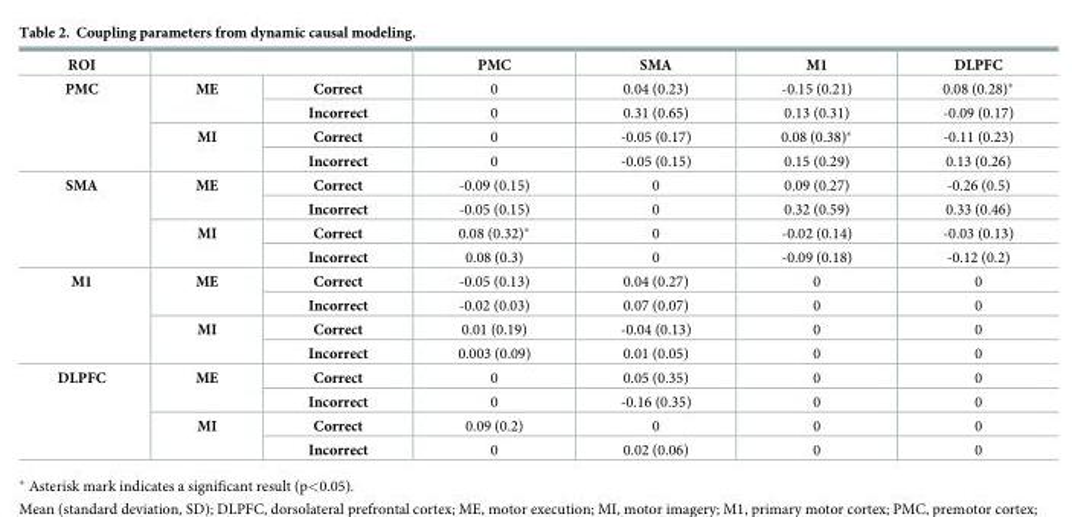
<table><thead><tr><td>ROI</td><td></td><td></td><td>PMC</td><td>SMA</td><td>M1</td><td>DLPFC</td></tr></thead><tbody><tr><td rowspan="4">PMC</td><td rowspan="2">ME</td><td>Correct</td><td>0</td><td>0.04 (0.23)</td><td>-0.15 (0.21)</td><td>0.08 (0.28)*</td></tr><tr><td>Incorrect</td><td>0</td><td>0.31 (0.65)</td><td>0.13 (0.31)</td><td>-0.09 (0.17)</td></tr><tr><td rowspan="2">MI</td><td>Correct</td><td>0</td><td>-0.05 (0.17)</td><td>0.08 (0.38)*</td><td>-0.11 (0.23)</td></tr><tr><td>Incorrect</td><td>0</td><td>-0.05 (0.15)</td><td>0.15 (0.29)</td><td>0.13 (0.26)</td></tr><tr><td rowspan="4">SMA</td><td rowspan="2">ME</td><td>Correct</td><td>-0.09 (0.15)</td><td>0</td><td>0.09 (0.27)</td><td>-0.26 (0.5)</td></tr><tr><td>Incorrect</td><td>-0.05 (0.15)</td><td>0</td><td>0.32 (0.59)</td><td>0.33 (0.46)</td></tr><tr><td rowspan="2">MI</td><td>Correct</td><td>0.08 (0.32)*</td><td>0</td><td>-0.02 (0.14)</td><td>-0.03 (0.13)</td></tr><tr><td>Incorrect</td><td>0.08 (0.3)</td><td>0</td><td>-0.09 (0.18)</td><td>-0.12 (0.2)</td></tr><tr><td rowspan="4">M1</td><td rowspan="2">ME</td><td>Correct</td><td>-0.05 (0.13)</td><td>0.04 (0.27)</td><td>0</td><td>0</td></tr><tr><td>Incorrect</td><td>-0.02 (0.03)</td><td>0.07 (0.07)</td><td>0</td><td>0</td></tr><tr><td rowspan="2">MI</td><td>Correct</td><td>0.01 (0.19)</td><td>-0.04 (0.13)</td><td>0</td><td>0</td></tr><tr><td>Incorrect</td><td>0.003 (0.09)</td><td>0.01 (0.05)</td><td>0</td><td>0</td></tr><tr><td rowspan="4">DLPFC</td><td rowspan="2">ME</td><td>Correct</td><td>0</td><td>0.05 (0.35)</td><td>0</td><td>0</td></tr><tr><td>Incorrect</td><td>0</td><td>-0.16 (0.35)</td><td>0</td><td>0</td></tr><tr><td rowspan="2">MI</td><td>Correct</td><td>0.09 (0.2)</td><td>0</td><td>0</td><td>0</td></tr><tr><td>Incorrect</td><td>0</td><td>0.02 (0.06)</td><td>0</td><td>0</td></tr></tbody></table>